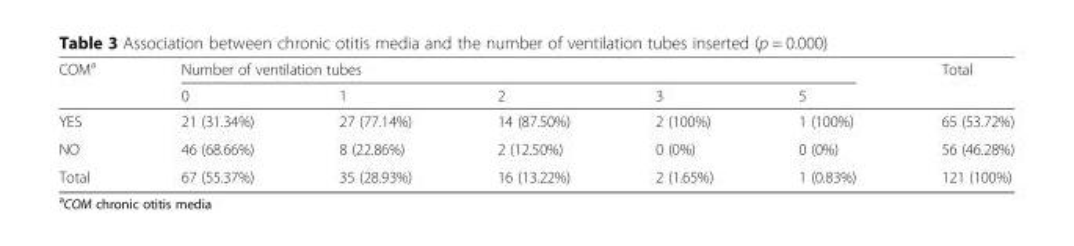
<table><thead><tr><td rowspan="2">COM<sup>a</sup></td><td colspan="5">Number of ventilation tubes</td><td rowspan="2">Total</td></tr><tr><td>0</td><td>1</td><td>2</td><td>3</td><td>5</td></tr></thead><tbody><tr><td>YES</td><td>21 (31.34%)</td><td>27 (77.14%)</td><td>14 (87.50%)</td><td>2 (100%)</td><td>1 (100%)</td><td>65 (53.72%)</td></tr><tr><td>NO</td><td>46 (68.66%)</td><td>8 (22.86%)</td><td>2 (12.50%)</td><td>0 (0%)</td><td>0 (0%)</td><td>56 (46.28%)</td></tr><tr><td>Total</td><td>67 (55.37%)</td><td>35 (28.93%)</td><td>16 (13.22%)</td><td>2 (1.65%)</td><td>1 (0.83%)</td><td>121 (100%)</td></tr></tbody></table>